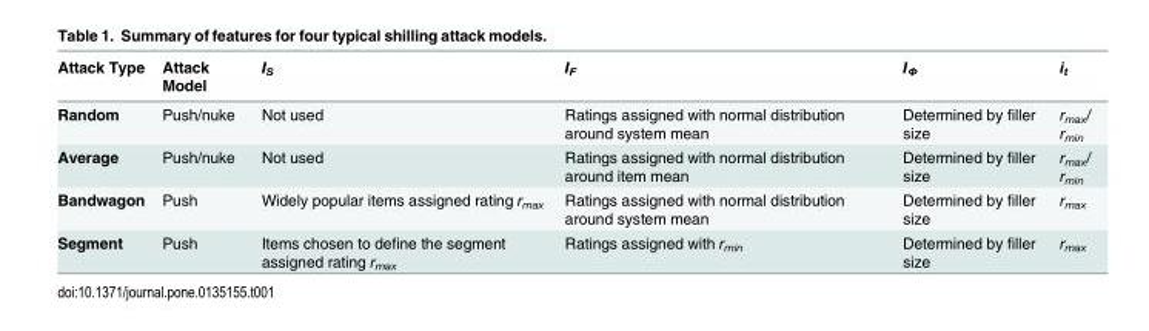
<table><thead><tr><td>Attack Type</td><td>Attack Model</td><td>I<sub>S</sub></td><td>I<sub>F</sub></td><td>I<sub>Φ</sub></td><td>i<sub>t</sub></td></tr></thead><tbody><tr><td>Random</td><td>Push/nuke</td><td>Not used</td><td>Ratings assigned with normal distribution around system mean</td><td>Determined by filler size</td><td>r<sub>max</sub>/ r<sub>min</sub></td></tr><tr><td>Average</td><td>Push/nuke</td><td>Not used</td><td>Ratings assigned with normal distribution around item mean</td><td>Determined by filler size</td><td>r<sub>max</sub>/ r<sub>min</sub></td></tr><tr><td>Bandwagon</td><td>Push</td><td>Widely popular items assigned rating r<sub>max</sub></td><td>Ratings assigned with normal distribution around system mean</td><td>Determined by filler size</td><td>r<sub>max</sub></td></tr><tr><td>Segment</td><td>Push</td><td>Items chosen to define the segment assigned rating r<sub>max</sub></td><td>Ratings assigned with r<sub>min</sub></td><td>Determined by filler size</td><td>r<sub>max</sub></td></tr></tbody></table>